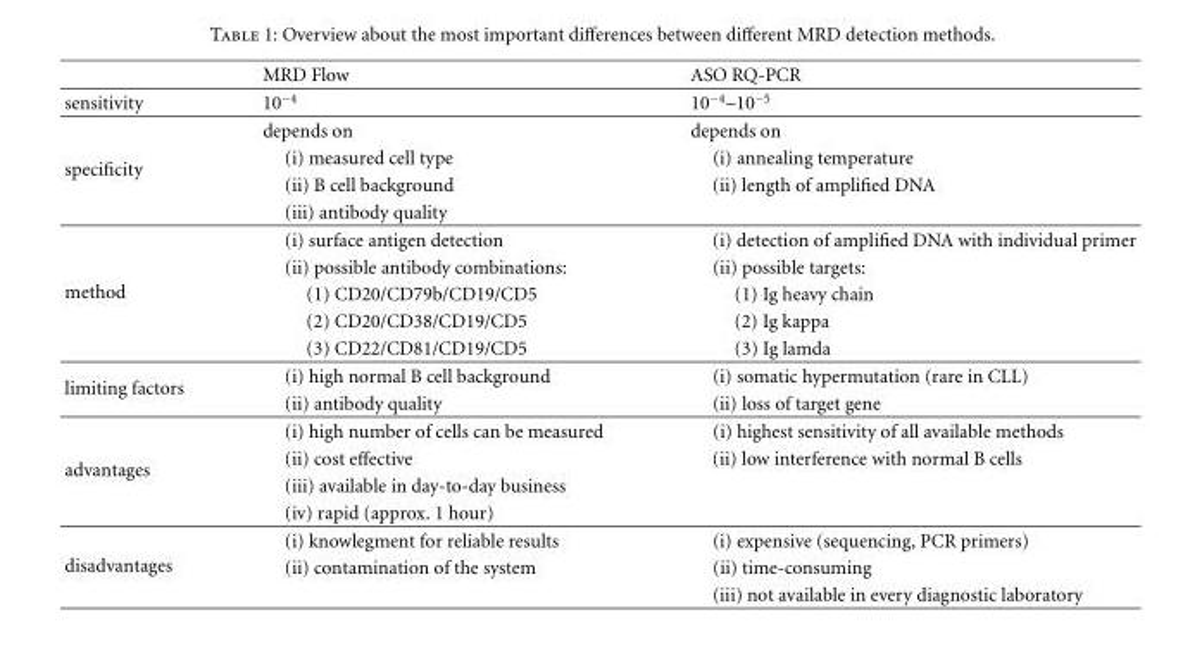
<table><thead><tr><td></td><td>MRD Flow</td><td>ASO RQ-PCR</td></tr></thead><tbody><tr><td>sensitivity</td><td>10<sup>−4</sup></td><td>10<sup>−4</sup>–10<sup>−5</sup></td></tr><tr><td rowspan="4">specificity</td><td>depends on</td><td>depends on</td></tr><tr><td>(i) measured cell type</td><td>(i) annealing temperature</td></tr><tr><td>(ii) B cell background</td><td>(ii) length of amplified DNA</td></tr><tr><td>(iii) antibody quality</td><td></td></tr><tr><td rowspan="5">method</td><td>(i) surface antigen detection</td><td>(i) detection of amplified DNA with individual primer</td></tr><tr><td>(ii) possible antibody combinations:</td><td>(ii) possible targets:</td></tr><tr><td>(1) CD20/CD79b/CD19/CD5</td><td>(1) Ig heavy chain</td></tr><tr><td>(2) CD20/CD38/CD19/CD5</td><td>(2) Ig kappa</td></tr><tr><td>(3) CD22/CD81/CD19/CD5</td><td>(3) Ig lamda</td></tr><tr><td rowspan="2">limiting factors</td><td>(i) high normal B cell background</td><td>(i) somatic hypermutation (rare in CLL)</td></tr><tr><td>(ii) antibody quality</td><td>(ii) loss of target gene</td></tr><tr><td rowspan="4">advantages</td><td>(i) high number of cells can be measured</td><td>(i) highest sensitivity of all available methods</td></tr><tr><td>(ii) cost effective</td><td>(ii) low interference with normal B cells</td></tr><tr><td>(iii) available in day-to-day business</td><td></td></tr><tr><td>(iv) rapid (approx. 1 hour)</td><td></td></tr><tr><td rowspan="3">disadvantages</td><td>(i) knowlegment for reliable results</td><td>(i) expensive (sequencing, PCR primers)</td></tr><tr><td>(ii) contamination of the system</td><td>(ii) time-consuming</td></tr><tr><td></td><td>(iii) not available in every diagnostic laboratory</td></tr></tbody></table>